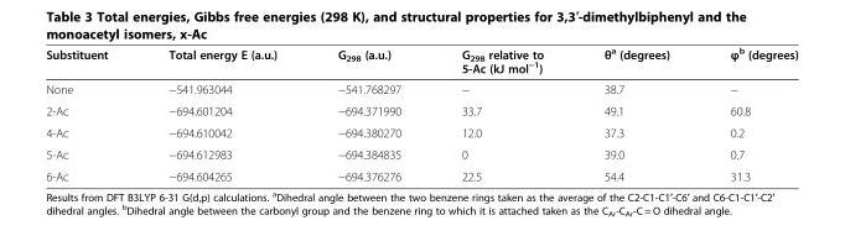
<table><thead><tr><td>Substituent</td><td>Total energy E (a.u.)</td><td>G<sub>298</sub> (a.u.)</td><td>G<sub>298</sub> relative to 5-Ac (kJ mol<sup>−1</sup>)</td><td>θ<sup>a</sup> (degrees)</td><td>φ<sup>b</sup> (degrees)</td></tr></thead><tbody><tr><td>None</td><td>−541.963044</td><td>−541.768297</td><td>−</td><td>38.7</td><td>−</td></tr><tr><td>2-Ac</td><td>−694.601204</td><td>−694.371990</td><td>33.7</td><td>49.1</td><td>60.8</td></tr><tr><td>4-Ac</td><td>−694.610042</td><td>−694.380270</td><td>12.0</td><td>37.3</td><td>0.2</td></tr><tr><td>5-Ac</td><td>−694.612983</td><td>−694.384835</td><td>0</td><td>39.0</td><td>0.7</td></tr><tr><td>6-Ac</td><td>−694.604265</td><td>−694.376276</td><td>22.5</td><td>54.4</td><td>31.3</td></tr></tbody></table>